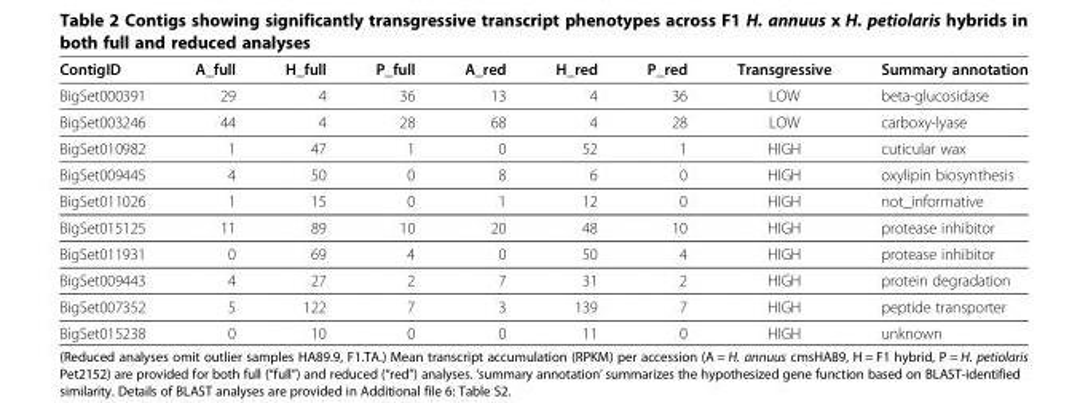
<table><thead><tr><td>ContigID</td><td>A_full</td><td>H_full</td><td>P_full</td><td>A_red</td><td>H_red</td><td>P_red</td><td>Transgressive</td><td>Summary annotation</td></tr></thead><tbody><tr><td>BigSet000391</td><td>29</td><td>4</td><td>36</td><td>13</td><td>4</td><td>36</td><td>LOW</td><td>beta-glucosidase</td></tr><tr><td>BigSet003246</td><td>44</td><td>4</td><td>28</td><td>68</td><td>4</td><td>28</td><td>LOW</td><td>carboxy-lyase</td></tr><tr><td>BigSet010982</td><td>1</td><td>47</td><td>1</td><td>0</td><td>52</td><td>1</td><td>HIGH</td><td>cuticular wax</td></tr><tr><td>BigSet009445</td><td>4</td><td>50</td><td>0</td><td>8</td><td>6</td><td>0</td><td>HIGH</td><td>oxylipin biosynthesis</td></tr><tr><td>BigSet011026</td><td>1</td><td>15</td><td>0</td><td>1</td><td>12</td><td>0</td><td>HIGH</td><td>not_informative</td></tr><tr><td>BigSet015125</td><td>11</td><td>89</td><td>10</td><td>20</td><td>48</td><td>10</td><td>HIGH</td><td>protease inhibitor</td></tr><tr><td>BigSet011931</td><td>0</td><td>69</td><td>4</td><td>0</td><td>50</td><td>4</td><td>HIGH</td><td>protease inhibitor</td></tr><tr><td>BigSet009443</td><td>4</td><td>27</td><td>2</td><td>7</td><td>31</td><td>2</td><td>HIGH</td><td>protein degradation</td></tr><tr><td>BigSet007352</td><td>5</td><td>122</td><td>7</td><td>3</td><td>139</td><td>7</td><td>HIGH</td><td>peptide transporter</td></tr><tr><td>BigSet015238</td><td>0</td><td>10</td><td>0</td><td>0</td><td>11</td><td>0</td><td>HIGH</td><td>unknown</td></tr></tbody></table>